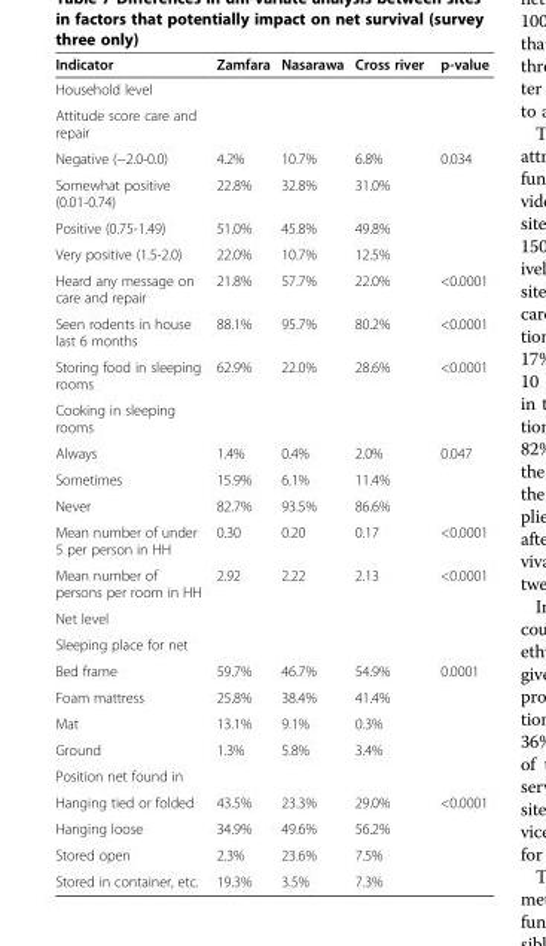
<table><thead><tr><td>Indicator</td><td>Zamfara</td><td>Nasarawa</td><td>Cross river</td><td>p-value</td></tr></thead><tbody><tr><td colspan="5">Household level</td></tr><tr><td colspan="5">Attitude score care and repair</td></tr><tr><td>Negative (−2.0-0.0)</td><td>4.2%</td><td>10.7%</td><td>6.8%</td><td rowspan="4">0.034</td></tr><tr><td>Somewhat positive (0.01-0.74)</td><td>22.8%</td><td>32.8%</td><td>31.0%</td></tr><tr><td>Positive (0.75-1.49)</td><td>51.0%</td><td>45.8%</td><td>49.8%</td></tr><tr><td>Very positive (1.5-2.0)</td><td>22.0%</td><td>10.7%</td><td>12.5%</td></tr><tr><td>Heard any message on care and repair</td><td>21.8%</td><td>57.7%</td><td>22.0%</td><td>&lt;0.0001</td></tr><tr><td>Seen rodents in house last 6 months</td><td>88.1%</td><td>95.7%</td><td>80.2%</td><td>&lt;0.0001</td></tr><tr><td>Storing food in sleeping rooms</td><td>62.9%</td><td>22.0%</td><td>28.6%</td><td>&lt;0.0001</td></tr><tr><td colspan="5">Cooking in sleeping rooms</td></tr><tr><td>Always</td><td>1.4%</td><td>0.4%</td><td>2.0%</td><td rowspan="3">0.047</td></tr><tr><td>Sometimes</td><td>15.9%</td><td>6.1%</td><td>11.4%</td></tr><tr><td>Never</td><td>82.7%</td><td>93.5%</td><td>86.6%</td></tr><tr><td>Mean number of under 5 per person in HH</td><td>0.30</td><td>0.20</td><td>0.17</td><td>&lt;0.0001</td></tr><tr><td>Mean number of persons per room in HH</td><td>2.92</td><td>2.22</td><td>2.13</td><td>&lt;0.0001</td></tr><tr><td colspan="5">Net level</td></tr><tr><td colspan="5">Sleeping place for net</td></tr><tr><td>Bed frame</td><td>59.7%</td><td>46.7%</td><td>54.9%</td><td rowspan="4">0.0001</td></tr><tr><td>Foam mattress</td><td>25.8%</td><td>38.4%</td><td>41.4%</td></tr><tr><td>Mat</td><td>13.1%</td><td>9.1%</td><td>0.3%</td></tr><tr><td>Ground</td><td>1.3%</td><td>5.8%</td><td>3.4%</td></tr><tr><td colspan="5">Position net found in</td></tr><tr><td>Hanging tied or folded</td><td>43.5%</td><td>23.3%</td><td>29.0%</td><td rowspan="4">&lt;0.0001</td></tr><tr><td>Hanging loose</td><td>34.9%</td><td>49.6%</td><td>56.2%</td></tr><tr><td>Stored open</td><td>2.3%</td><td>23.6%</td><td>7.5%</td></tr><tr><td>Stored in container, etc.</td><td>19.3%</td><td>3.5%</td><td>7.3%</td></tr></tbody></table>